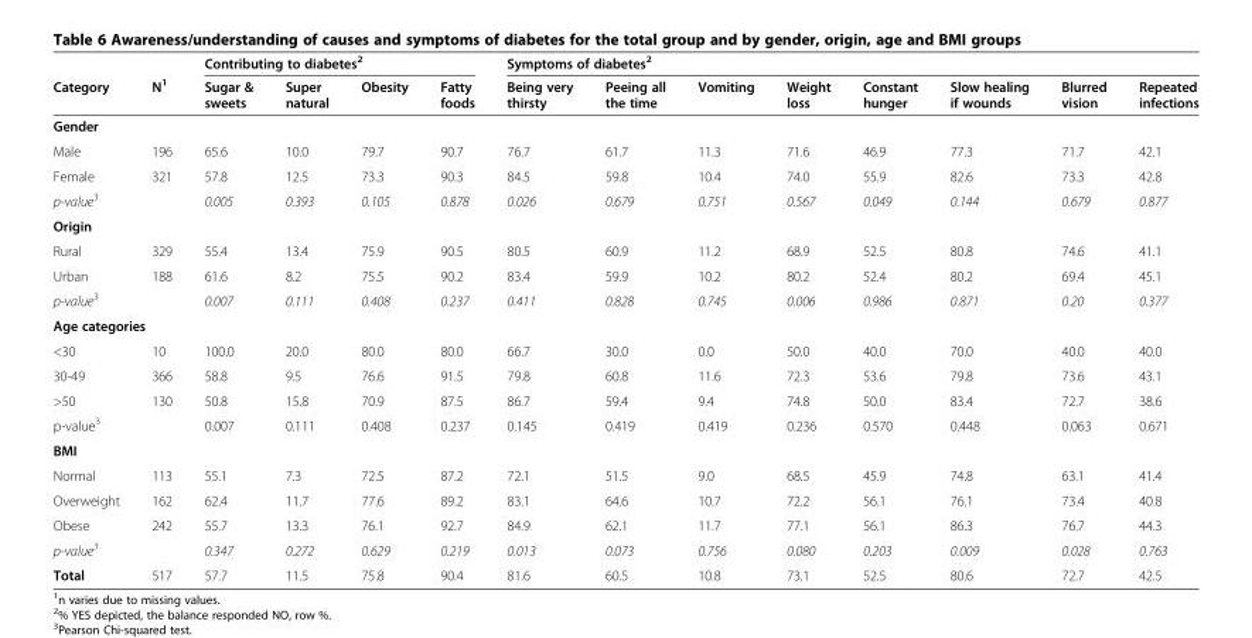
<table><thead><tr><td rowspan="2">Category</td><td rowspan="2">N<sup>1</sup></td><td colspan="4">Contributing to diabetes<sup>2</sup></td><td colspan="8">Symptoms of diabetes<sup>2</sup></td></tr><tr><td>Sugar &amp; sweets</td><td>Super natural</td><td>Obesity</td><td>Fatty foods</td><td>Being very thirsty</td><td>Peeing all the time</td><td>Vomiting</td><td>Weight loss</td><td>Constant hunger</td><td>Slow healing if wounds</td><td>Blurred vision</td><td>Repeated infections</td></tr></thead><tbody><tr><td colspan="14">Gender</td></tr><tr><td>Male</td><td>196</td><td>65.6</td><td>10.0</td><td>79.7</td><td>90.7</td><td>76.7</td><td>61.7</td><td>11.3</td><td>71.6</td><td>46.9</td><td>77.3</td><td>71.7</td><td>42.1</td></tr><tr><td>Female</td><td>321</td><td>57.8</td><td>12.5</td><td>73.3</td><td>90.3</td><td>84.5</td><td>59.8</td><td>10.4</td><td>74.0</td><td>55.9</td><td>82.6</td><td>73.3</td><td>42.8</td></tr><tr><td>p-value<sup>3</sup></td><td></td><td>0.005</td><td>0.393</td><td>0.105</td><td>0.878</td><td>0.026</td><td>0.679</td><td>0.751</td><td>0.567</td><td>0.049</td><td>0.144</td><td>0.679</td><td>0.877</td></tr><tr><td colspan="14">Origin</td></tr><tr><td>Rural</td><td>329</td><td>55.4</td><td>13.4</td><td>75.9</td><td>90.5</td><td>80.5</td><td>60.9</td><td>11.2</td><td>68.9</td><td>52.5</td><td>80.8</td><td>74.6</td><td>41.1</td></tr><tr><td>Urban</td><td>188</td><td>61.6</td><td>8.2</td><td>75.5</td><td>90.2</td><td>83.4</td><td>59.9</td><td>10.2</td><td>80.2</td><td>52.4</td><td>80.2</td><td>69.4</td><td>45.1</td></tr><tr><td>p-value<sup>3</sup></td><td></td><td>0.007</td><td>0.111</td><td>0.408</td><td>0.237</td><td>0.411</td><td>0.828</td><td>0.745</td><td>0.006</td><td>0.986</td><td>0.871</td><td>0.20</td><td>0.377</td></tr><tr><td colspan="14">Age categories</td></tr><tr><td>&lt;30</td><td>10</td><td>100.0</td><td>20.0</td><td>80.0</td><td>80.0</td><td>66.7</td><td>30.0</td><td>0.0</td><td>50.0</td><td>40.0</td><td>70.0</td><td>40.0</td><td>40.0</td></tr><tr><td>30-49</td><td>366</td><td>58.8</td><td>9.5</td><td>76.6</td><td>91.5</td><td>79.8</td><td>60.8</td><td>11.6</td><td>72.3</td><td>53.6</td><td>79.8</td><td>73.6</td><td>43.1</td></tr><tr><td>&gt;50</td><td>130</td><td>50.8</td><td>15.8</td><td>70.9</td><td>87.5</td><td>86.7</td><td>59.4</td><td>9.4</td><td>74.8</td><td>50.0</td><td>83.4</td><td>72.7</td><td>38.6</td></tr><tr><td>p-value<sup>3</sup></td><td></td><td>0.007</td><td>0.111</td><td>0.408</td><td>0.237</td><td>0.145</td><td>0.419</td><td>0.419</td><td>0.236</td><td>0.570</td><td>0.448</td><td>0.063</td><td>0.671</td></tr><tr><td colspan="14">BMI</td></tr><tr><td>Normal</td><td>113</td><td>55.1</td><td>7.3</td><td>72.5</td><td>87.2</td><td>72.1</td><td>51.5</td><td>9.0</td><td>68.5</td><td>45.9</td><td>74.8</td><td>63.1</td><td>41.4</td></tr><tr><td>Overweight</td><td>162</td><td>62.4</td><td>11.7</td><td>77.6</td><td>89.2</td><td>83.1</td><td>64.6</td><td>10.7</td><td>72.2</td><td>56.1</td><td>76.1</td><td>73.4</td><td>40.8</td></tr><tr><td>Obese</td><td>242</td><td>55.7</td><td>13.3</td><td>76.1</td><td>92.7</td><td>84.9</td><td>62.1</td><td>11.7</td><td>77.1</td><td>56.1</td><td>86.3</td><td>76.7</td><td>44.3</td></tr><tr><td>p-value<sup>3</sup></td><td></td><td>0.347</td><td>0.272</td><td>0.629</td><td>0.219</td><td>0.013</td><td>0.073</td><td>0.756</td><td>0.080</td><td>0.203</td><td>0.009</td><td>0.028</td><td>0.763</td></tr><tr><td>Total</td><td>517</td><td>57.7</td><td>11.5</td><td>75.8</td><td>90.4</td><td>81.6</td><td>60.5</td><td>10.8</td><td>73.1</td><td>52.5</td><td>80.6</td><td>72.7</td><td>42.5</td></tr></tbody></table>